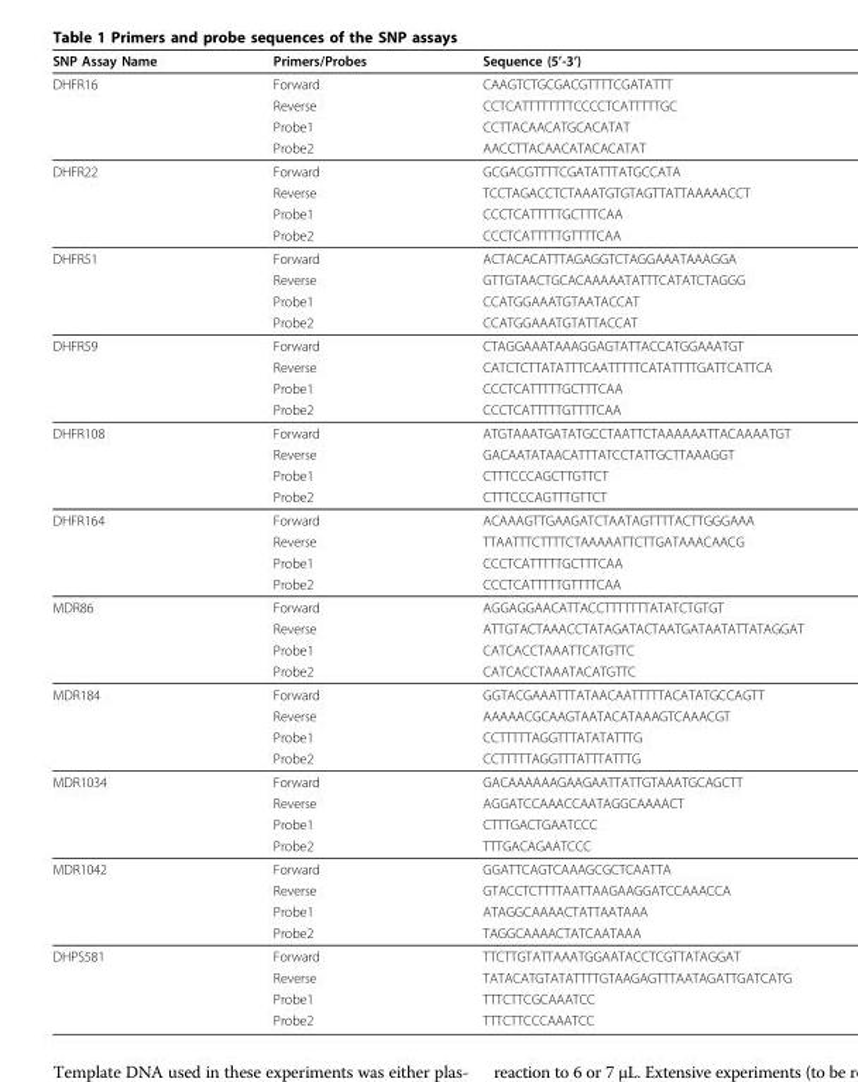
<table><thead><tr><td>SNP Assay Name</td><td>Primers/Probes</td><td>Sequence (5’-3’)</td></tr></thead><tbody><tr><td rowspan="4">DHFR16</td><td>Forward</td><td>CAAGTCTGCGACGTTTTCGATATTT</td></tr><tr><td>Reverse</td><td>CCTCATTTTTTTTCCCCTCATTTTTGC</td></tr><tr><td>Probe1</td><td>CCTTACAACATGCACATAT</td></tr><tr><td>Probe2</td><td>AACCTTACAACATACACATAT</td></tr><tr><td rowspan="4">DHFR22</td><td>Forward</td><td>GCGACGTTTTCGATATTTATGCCATA</td></tr><tr><td>Reverse</td><td>TCCTAGACCTCTAAATGTGTAGTTATTAAAAACCT</td></tr><tr><td>Probe1</td><td>CCCTCATTTTTGCTTTCAA</td></tr><tr><td>Probe2</td><td>CCCTCATTTTTGTTTTCAA</td></tr><tr><td rowspan="4">DHFR51</td><td>Forward</td><td>ACTACACATTTAGAGGTCTAGGAAATAAAGGA</td></tr><tr><td>Reverse</td><td>GTTGTAACTGCACAAAAATATTTCATATCTAGGG</td></tr><tr><td>Probe1</td><td>CCATGGAAATGTAATACCAT</td></tr><tr><td>Probe2</td><td>CCATGGAAATGTATTACCAT</td></tr><tr><td rowspan="4">DHFR59</td><td>Forward</td><td>CTAGGAAATAAAGGAGTATTACCATGGAAATGT</td></tr><tr><td>Reverse</td><td>CATCTCTTATATTTCAATTTTTCATATTTTGATTCATTCA</td></tr><tr><td>Probe1</td><td>CCCTCATTTTTGCTTTCAA</td></tr><tr><td>Probe2</td><td>CCCTCATTTTTGTTTTCAA</td></tr><tr><td rowspan="4">DHFR108</td><td>Forward</td><td>ATGTAAATGATATGCCTAATTCTAAAAAATTACAAAATGT</td></tr><tr><td>Reverse</td><td>GACAATATAACATTTATCCTATTGCTTAAAGGT</td></tr><tr><td>Probe1</td><td>CTTTCCCAGCTTGTTCT</td></tr><tr><td>Probe2</td><td>CTTTCCCAGTTTGTTCT</td></tr><tr><td rowspan="4">DHFR164</td><td>Forward</td><td>ACAAAGTTGAAGATCTAATAGTTTTACTTGGGAAA</td></tr><tr><td>Reverse</td><td>TTAATTTCTTTTCTAAAAATTCTTGATAAACAACG</td></tr><tr><td>Probe1</td><td>CCCTCATTTTTGCTTTCAA</td></tr><tr><td>Probe2</td><td>CCCTCATTTTTGTTTTCAA</td></tr><tr><td rowspan="4">MDR86</td><td>Forward</td><td>AGGAGGAACATTACCTTTTTTTATATCTGTGT</td></tr><tr><td>Reverse</td><td>ATTGTACTAAACCTATAGATACTAATGATAATATTATAGGAT</td></tr><tr><td>Probe1</td><td>CATCACCTAAATTCATGTTC</td></tr><tr><td>Probe2</td><td>CATCACCTAAATACATGTTC</td></tr><tr><td rowspan="4">MDR184</td><td>Forward</td><td>GGTACGAAATTTATAACAATTTTTACATATGCCAGTT</td></tr><tr><td>Reverse</td><td>AAAAACGCAAGTAATACATAAAGTCAAACGT</td></tr><tr><td>Probe1</td><td>CCTTTTTAGGTTTATATATTTG</td></tr><tr><td>Probe2</td><td>CCTTTTTAGGTTTATTTATTTG</td></tr><tr><td rowspan="4">MDR1034</td><td>Forward</td><td>GACAAAAAAGAAGAATTATTGTAAATGCAGCTT</td></tr><tr><td>Reverse</td><td>AGGATCCAAACCAATAGGCAAAACT</td></tr><tr><td>Probe1</td><td>CTTTGACTGAATCCC</td></tr><tr><td>Probe2</td><td>TTTGACAGAATCCC</td></tr><tr><td rowspan="4">MDR1042</td><td>Forward</td><td>GGATTCAGTCAAAGCGCTCAATTA</td></tr><tr><td>Reverse</td><td>GTACCTCTTTTAATTAAGAAGGATCCAAACCA</td></tr><tr><td>Probe1</td><td>ATAGGCAAAACTATTAATAAA</td></tr><tr><td>Probe2</td><td>TAGGCAAAACTATCAATAAA</td></tr><tr><td rowspan="4">DHPS581</td><td>Forward</td><td>TTCTTGTATTAAATGGAATACCTCGTTATAGGAT</td></tr><tr><td>Reverse</td><td>TATACATGTATATTTTGTAAGAGTTTAATAGATTGATCATG</td></tr><tr><td>Probe1</td><td>TTTCTTCGCAAATCC</td></tr><tr><td>Probe2</td><td>TTTCTTCCCAAATCC</td></tr></tbody></table>